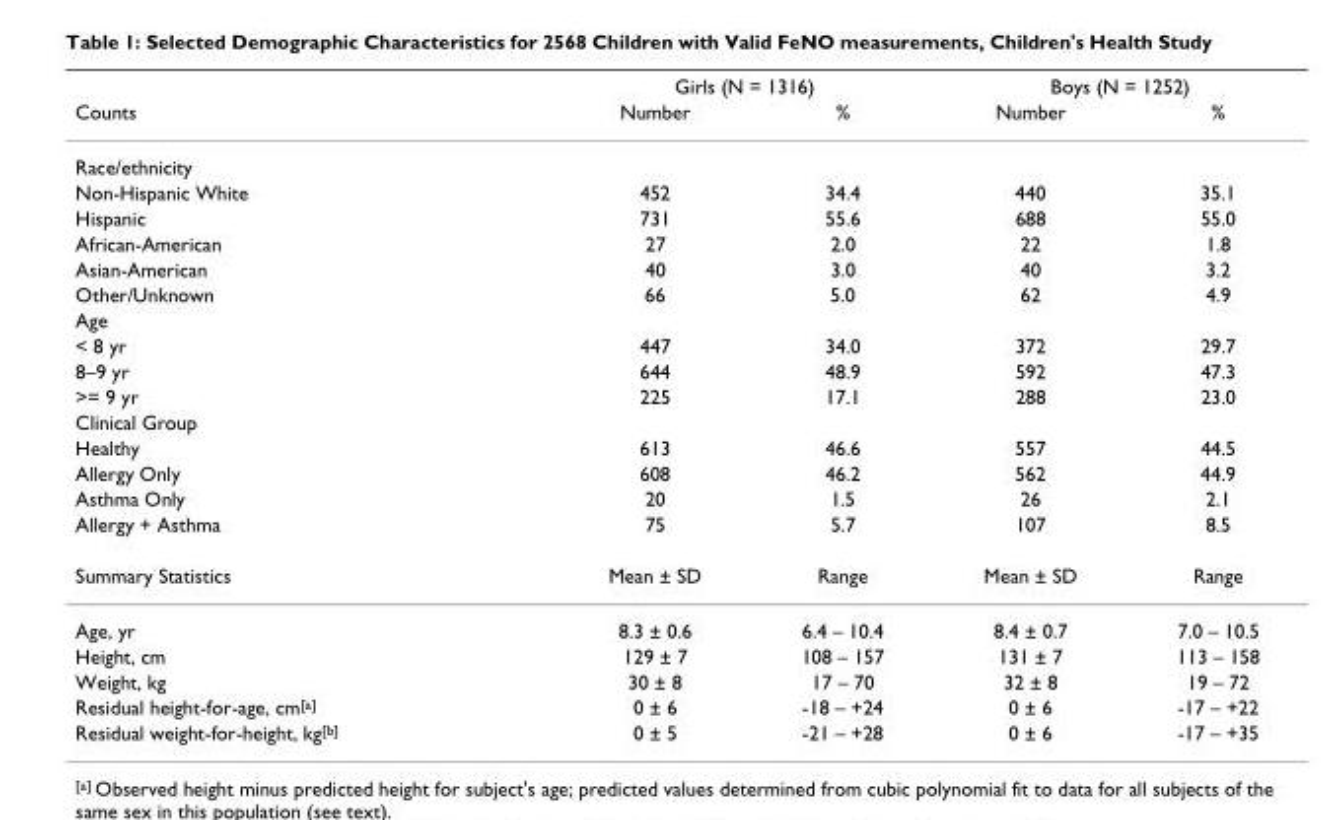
<table><thead><tr><td rowspan="2">Counts</td><td colspan="2">Girls (N = 1316)</td><td colspan="2">Boys (N = 1252)</td></tr><tr><td>Number</td><td>%</td><td>Number</td><td>%</td></tr></thead><tbody><tr><td colspan="5">Race/ethnicity</td></tr><tr><td>Non-Hispanic White</td><td>452</td><td>34.4</td><td>440</td><td>35.1</td></tr><tr><td>Hispanic</td><td>731</td><td>55.6</td><td>688</td><td>55.0</td></tr><tr><td>African-American</td><td>27</td><td>2.0</td><td>22</td><td>1.8</td></tr><tr><td>Asian-American</td><td>40</td><td>3.0</td><td>40</td><td>3.2</td></tr><tr><td>Other/Unknown</td><td>66</td><td>5.0</td><td>62</td><td>4.9</td></tr><tr><td colspan="5">Age</td></tr><tr><td>&lt; 8 yr</td><td>447</td><td>34.0</td><td>372</td><td>29.7</td></tr><tr><td>8–9 yr</td><td>644</td><td>48.9</td><td>592</td><td>47.3</td></tr><tr><td>&gt;= 9 yr</td><td>225</td><td>17.1</td><td>288</td><td>23.0</td></tr><tr><td colspan="5">Clinical Group</td></tr><tr><td>Healthy</td><td>613</td><td>46.6</td><td>557</td><td>44.5</td></tr><tr><td>Allergy Only</td><td>608</td><td>46.2</td><td>562</td><td>44.9</td></tr><tr><td>Asthma Only</td><td>20</td><td>1.5</td><td>26</td><td>2.1</td></tr><tr><td>Allergy + Asthma</td><td>75</td><td>5.7</td><td>107</td><td>8.5</td></tr><tr><td>Summary Statistics</td><td>Mean ± SD</td><td>Range</td><td>Mean ± SD</td><td>Range</td></tr><tr><td>Age, yr</td><td>8.3 ± 0.6</td><td>6.4 – 10.4</td><td>8.4 ± 0.7</td><td>7.0 – 10.5</td></tr><tr><td>Height, cm</td><td>129 ± 7</td><td>108 – 157</td><td>131 ± 7</td><td>113 – 158</td></tr><tr><td>Weight, kg</td><td>30 ± 8</td><td>17 – 70</td><td>32 ± 8</td><td>19 – 72</td></tr><tr><td>Residual height-for-age, cm<sup>[a]</sup></td><td>0 ± 6</td><td>-18 – +24</td><td>0 ± 6</td><td>-17 – +22</td></tr><tr><td>Residual weight-for-height, kg<sup>[b]</sup></td><td>0 ± 5</td><td>-21 – +28</td><td>0 ± 6</td><td>-17 – +35</td></tr></tbody></table>